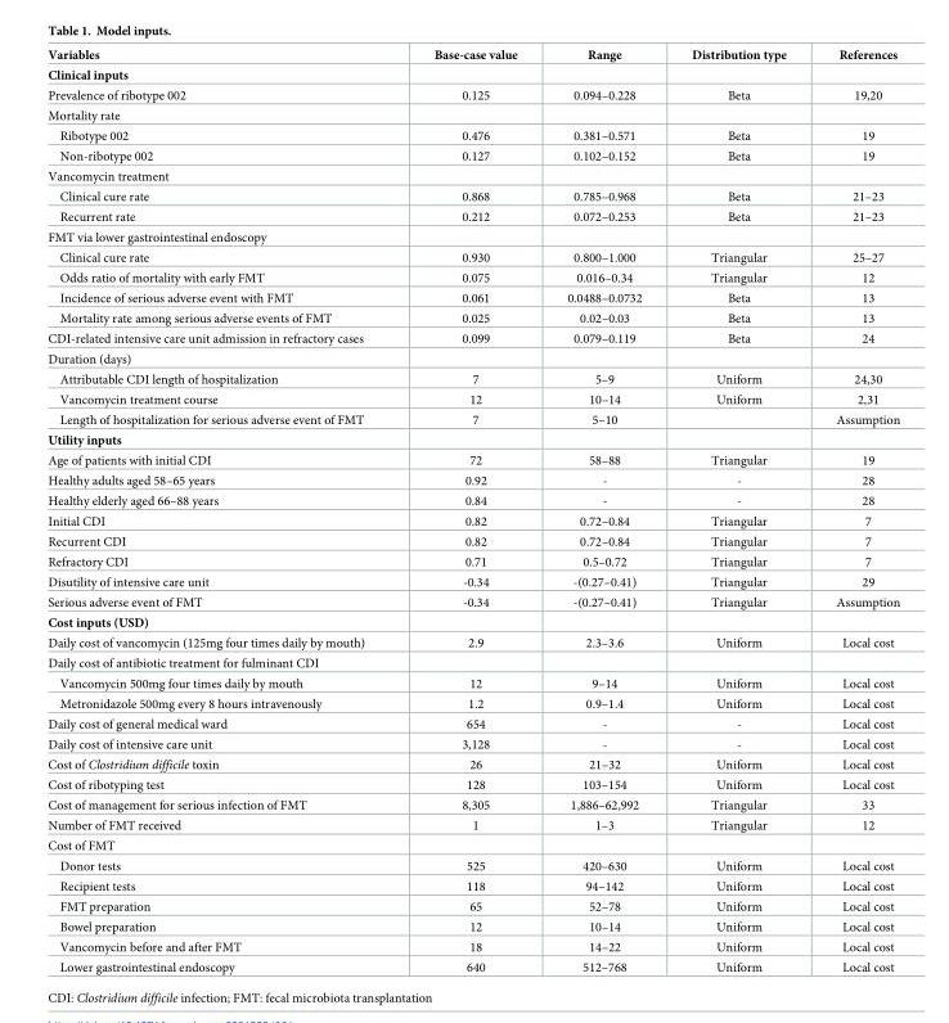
<table><thead><tr><td>Variables</td><td>Base-case value</td><td>Range</td><td>Distribution type</td><td>References</td></tr></thead><tbody><tr><td colspan="5">Clinical inputs</td></tr><tr><td>Prevalence of ribotype 002</td><td>0.125</td><td>0.094–0.228</td><td>Beta</td><td>19,20</td></tr><tr><td colspan="5">Mortality rate</td></tr><tr><td>Ribotype 002</td><td>0.476</td><td>0.381–0.571</td><td>Beta</td><td>19</td></tr><tr><td>Non-ribotype 002</td><td>0.127</td><td>0.102–0.152</td><td>Beta</td><td>19</td></tr><tr><td colspan="5">Vancomycin treatment</td></tr><tr><td>Clinical cure rate</td><td>0.868</td><td>0.785–0.968</td><td>Beta</td><td>21–23</td></tr><tr><td>Recurrent rate</td><td>0.212</td><td>0.072–0.253</td><td>Beta</td><td>21–23</td></tr><tr><td colspan="5">FMT via lower gastrointestinal endoscopy</td></tr><tr><td>Clinical cure rate</td><td>0.930</td><td>0.800–1.000</td><td>Triangular</td><td>25–27</td></tr><tr><td>Odds ratio of mortality with early FMT</td><td>0.075</td><td>0.016–0.34</td><td>Triangular</td><td>12</td></tr><tr><td>Incidence of serious adverse event with FMT</td><td>0.061</td><td>0.0488–0.0732</td><td>Beta</td><td>13</td></tr><tr><td>Mortality rate among serious adverse events of FMT</td><td>0.025</td><td>0.02–0.03</td><td>Beta</td><td>13</td></tr><tr><td>CDI-related intensive care unit admission in refractory cases</td><td>0.099</td><td>0.079–0.119</td><td>Beta</td><td>24</td></tr><tr><td colspan="5">Duration (days)</td></tr><tr><td>Attributable CDI length of hospitalization</td><td>7</td><td>5–9</td><td>Uniform</td><td>24,30</td></tr><tr><td>Vancomycin treatment course</td><td>12</td><td>10–14</td><td>Uniform</td><td>2,31</td></tr><tr><td>Length of hospitalization for serious adverse event of FMT</td><td>7</td><td>5–10</td><td></td><td>Assumption</td></tr><tr><td colspan="5">Utility inputs</td></tr><tr><td>Age of patients with initial CDI</td><td>72</td><td>58–88</td><td>Triangular</td><td>19</td></tr><tr><td>Healthy adults aged 58–65 years</td><td>0.92</td><td>-</td><td>-</td><td>28</td></tr><tr><td>Healthy elderly aged 66–88 years</td><td>0.84</td><td>-</td><td>-</td><td>28</td></tr><tr><td>Initial CDI</td><td>0.82</td><td>0.72–0.84</td><td>Triangular</td><td>7</td></tr><tr><td>Recurrent CDI</td><td>0.82</td><td>0.72–0.84</td><td>Triangular</td><td>7</td></tr><tr><td>Refractory CDI</td><td>0.71</td><td>0.5–0.72</td><td>Triangular</td><td>7</td></tr><tr><td>Disutility of intensive care unit</td><td>-0.34</td><td>-(0.27–0.41)</td><td>Triangular</td><td>29</td></tr><tr><td>Serious adverse event of FMT</td><td>-0.34</td><td>-(0.27–0.41)</td><td>Triangular</td><td>Assumption</td></tr><tr><td colspan="5">Cost inputs (USD)</td></tr><tr><td>Daily cost of vancomycin (125mg four times daily by mouth)</td><td>2.9</td><td>2.3–3.6</td><td>Uniform</td><td>Local cost</td></tr><tr><td colspan="5">Daily cost of antibiotic treatment for fulminant CDI</td></tr><tr><td>Vancomycin 500mg four times daily by mouth</td><td>12</td><td>9–14</td><td>Uniform</td><td>Local cost</td></tr><tr><td>Metronidazole 500mg every 8 hours intravenously</td><td>1.2</td><td>0.9–1.4</td><td>Uniform</td><td>Local cost</td></tr><tr><td>Daily cost of general medical ward</td><td>654</td><td>-</td><td>-</td><td>Local cost</td></tr><tr><td>Daily cost of intensive care unit</td><td>3,128</td><td>-</td><td>-</td><td>Local cost</td></tr><tr><td>Cost of Clostridium difficile toxin</td><td>26</td><td>21–32</td><td>Uniform</td><td>Local cost</td></tr><tr><td>Cost of ribotyping test</td><td>128</td><td>103–154</td><td>Uniform</td><td>Local cost</td></tr><tr><td>Cost of management for serious infection of FMT</td><td>8,305</td><td>1,886–62,992</td><td>Triangular</td><td>33</td></tr><tr><td>Number of FMT received</td><td>1</td><td>1–3</td><td>Triangular</td><td>12</td></tr><tr><td colspan="5">Cost of FMT</td></tr><tr><td>Donor tests</td><td>525</td><td>420–630</td><td>Uniform</td><td>Local cost</td></tr><tr><td>Recipient tests</td><td>118</td><td>94–142</td><td>Uniform</td><td>Local cost</td></tr><tr><td>FMT preparation</td><td>65</td><td>52–78</td><td>Uniform</td><td>Local cost</td></tr><tr><td>Bowel preparation</td><td>12</td><td>10–14</td><td>Uniform</td><td>Local cost</td></tr><tr><td>Vancomycin before and after FMT</td><td>18</td><td>14–22</td><td>Uniform</td><td>Local cost</td></tr><tr><td>Lower gastrointestinal endoscopy</td><td>640</td><td>512–768</td><td>Uniform</td><td>Local cost</td></tr></tbody></table>